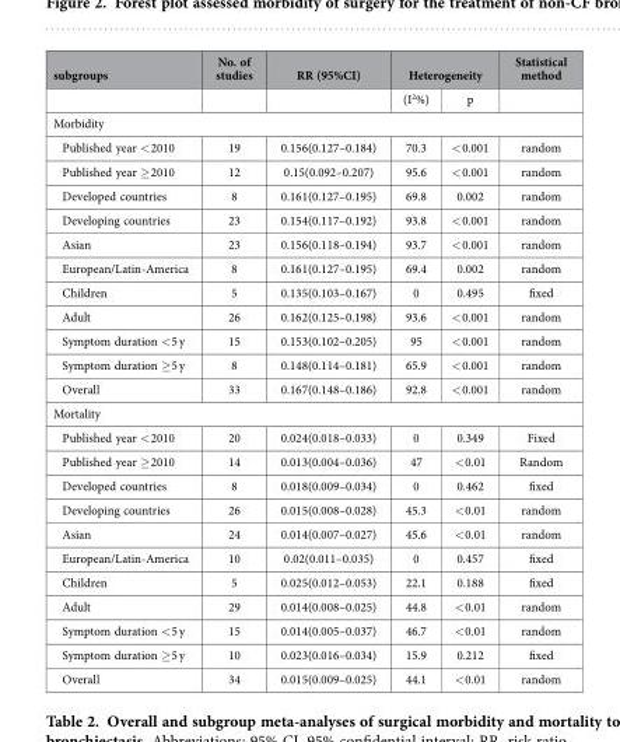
<table><thead><tr><td rowspan="2">subgroups</td><td rowspan="2">No. of studies</td><td rowspan="2">RR (95%CI)</td><td colspan="2">Heterogeneity</td><td rowspan="2">Statistical method</td></tr><tr><td>(I<sup>2</sup>%)</td><td>p</td></tr></thead><tbody><tr><td colspan="6">Morbidity</td></tr><tr><td>Published year &lt; 2010</td><td>19</td><td>0.156(0.127–0.184)</td><td>70.3</td><td>&lt; 0.001</td><td>random</td></tr><tr><td>Published year ≥ 2010</td><td>12</td><td>0.15(0.092–0.207)</td><td>95.6</td><td>&lt; 0.001</td><td>random</td></tr><tr><td>Developed countries</td><td>8</td><td>0.161(0.127–0.195)</td><td>69.8</td><td>0.002</td><td>random</td></tr><tr><td>Developing countries</td><td>23</td><td>0.154(0.117–0.192)</td><td>93.8</td><td>&lt; 0.001</td><td>random</td></tr><tr><td>Asian</td><td>23</td><td>0.156(0.118–0.194)</td><td>93.7</td><td>&lt; 0.001</td><td>random</td></tr><tr><td>European/Latin-America</td><td>8</td><td>0.161(0.127–0.195)</td><td>69.4</td><td>0.002</td><td>random</td></tr><tr><td>Children</td><td>5</td><td>0.135(0.103–0.167)</td><td>0</td><td>0.495</td><td>fixed</td></tr><tr><td>Adult</td><td>26</td><td>0.162(0.125–0.198)</td><td>93.6</td><td>&lt; 0.001</td><td>random</td></tr><tr><td>Symptom duration &lt; 5 y</td><td>15</td><td>0.153(0.102–0.205)</td><td>95</td><td>&lt; 0.001</td><td>random</td></tr><tr><td>Symptom duration ≥ 5 y</td><td>8</td><td>0.148(0.114–0.181)</td><td>65.9</td><td>&lt; 0.001</td><td>random</td></tr><tr><td>Overall</td><td>33</td><td>0.167(0.148–0.186)</td><td>92.8</td><td>&lt; 0.001</td><td>random</td></tr><tr><td colspan="6">Mortality</td></tr><tr><td>Published year &lt; 2010</td><td>20</td><td>0.024(0.018–0.033)</td><td>0</td><td>0.349</td><td>Fixed</td></tr><tr><td>Published year ≥ 2010</td><td>14</td><td>0.013(0.004–0.036)</td><td>47</td><td>&lt; 0.01</td><td>Random</td></tr><tr><td>Developed countries</td><td>8</td><td>0.018(0.009–0.034)</td><td>0</td><td>0.462</td><td>fixed</td></tr><tr><td>Developing countries</td><td>26</td><td>0.015(0.008–0.028)</td><td>45.3</td><td>&lt; 0.01</td><td>random</td></tr><tr><td>Asian</td><td>24</td><td>0.014(0.007–0.027)</td><td>45.6</td><td>&lt; 0.01</td><td>random</td></tr><tr><td>European/Latin-America</td><td>10</td><td>0.02(0.011–0.035)</td><td>0</td><td>0.457</td><td>fixed</td></tr><tr><td>Children</td><td>5</td><td>0.025(0.012–0.053)</td><td>22.1</td><td>0.188</td><td>fixed</td></tr><tr><td>Adult</td><td>29</td><td>0.014(0.008–0.025)</td><td>44.8</td><td>&lt; 0.01</td><td>random</td></tr><tr><td>Symptom duration &lt; 5 y</td><td>15</td><td>0.014(0.005–0.037)</td><td>46.7</td><td>&lt; 0.01</td><td>random</td></tr><tr><td>Symptom duration ≥ 5 y</td><td>10</td><td>0.023(0.016–0.034)</td><td>15.9</td><td>0.212</td><td>fixed</td></tr><tr><td>Overall</td><td>34</td><td>0.015(0.009–0.025)</td><td>44.1</td><td>&lt; 0.01</td><td>random</td></tr></tbody></table>